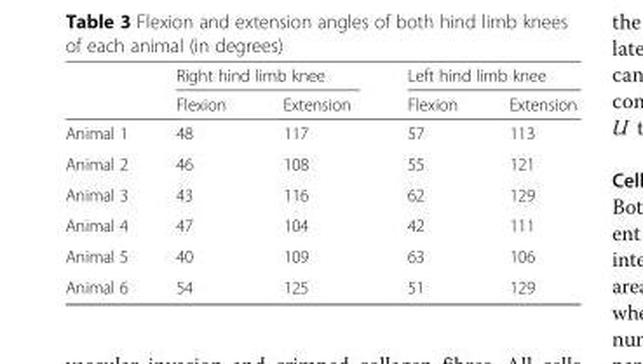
<table><thead><tr><td rowspan="2"></td><td colspan="2">Right hind limb knee</td><td colspan="2">Left hind limb knee</td></tr><tr><td>Flexion</td><td>Extension</td><td>Flexion</td><td>Extension</td></tr></thead><tbody><tr><td>Animal 1</td><td>48</td><td>117</td><td>57</td><td>113</td></tr><tr><td>Animal 2</td><td>46</td><td>108</td><td>55</td><td>121</td></tr><tr><td>Animal 3</td><td>43</td><td>116</td><td>62</td><td>129</td></tr><tr><td>Animal 4</td><td>47</td><td>104</td><td>42</td><td>111</td></tr><tr><td>Animal 5</td><td>40</td><td>109</td><td>63</td><td>106</td></tr><tr><td>Animal 6</td><td>54</td><td>125</td><td>51</td><td>129</td></tr></tbody></table>